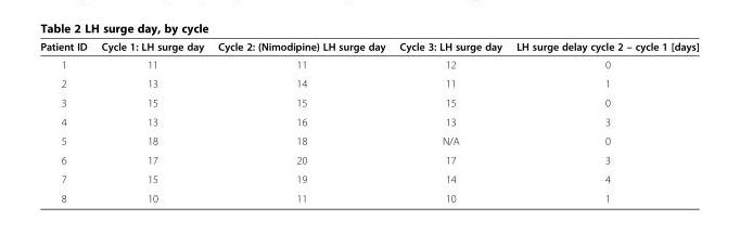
<table><thead><tr><td>Patient ID</td><td>Cycle 1: LH surge day</td><td>Cycle 2: (Nimodipine) LH surge day</td><td>Cycle 3: LH surge day</td><td>LH surge delay cycle 2 – cycle 1 [days]</td></tr></thead><tbody><tr><td>1</td><td>11</td><td>11</td><td>12</td><td>0</td></tr><tr><td>2</td><td>13</td><td>14</td><td>11</td><td>1</td></tr><tr><td>3</td><td>15</td><td>15</td><td>15</td><td>0</td></tr><tr><td>4</td><td>13</td><td>16</td><td>13</td><td>3</td></tr><tr><td>5</td><td>18</td><td>18</td><td>N/A</td><td>0</td></tr><tr><td>6</td><td>17</td><td>20</td><td>17</td><td>3</td></tr><tr><td>7</td><td>15</td><td>19</td><td>14</td><td>4</td></tr><tr><td>8</td><td>10</td><td>11</td><td>10</td><td>1</td></tr></tbody></table>